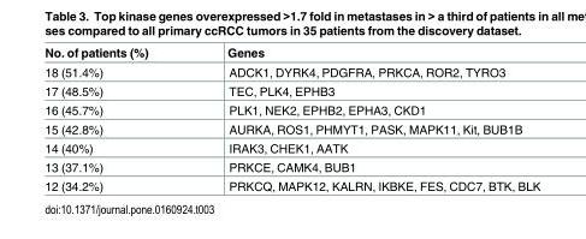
<table><thead><tr><td>No. of patients (%)</td><td>Genes</td></tr></thead><tbody><tr><td>18 (51.4%)</td><td>ADCK1, DYRK4, PDGFRA, PRKCA, ROR2, TYRO3</td></tr><tr><td>17 (48.5%)</td><td>TEC, PLK4, EPHB3</td></tr><tr><td>16 (45.7%)</td><td>PLK1, NEK2, EPHB2, EPHA3, CKD1</td></tr><tr><td>15 (42.8%)</td><td>AURKA, ROS1, PHMYT1, PASK, MAPK11, Kit, BUB1B</td></tr><tr><td>14 (40%)</td><td>IRAK3, CHEK1, AATK</td></tr><tr><td>13 (37.1%)</td><td>PRKCE, CAMK4, BUB1</td></tr><tr><td>12 (34.2%)</td><td>PRKCQ, MAPK12, KALRN, IKBKE, FES, CDC7, BTK, BLK</td></tr></tbody></table>